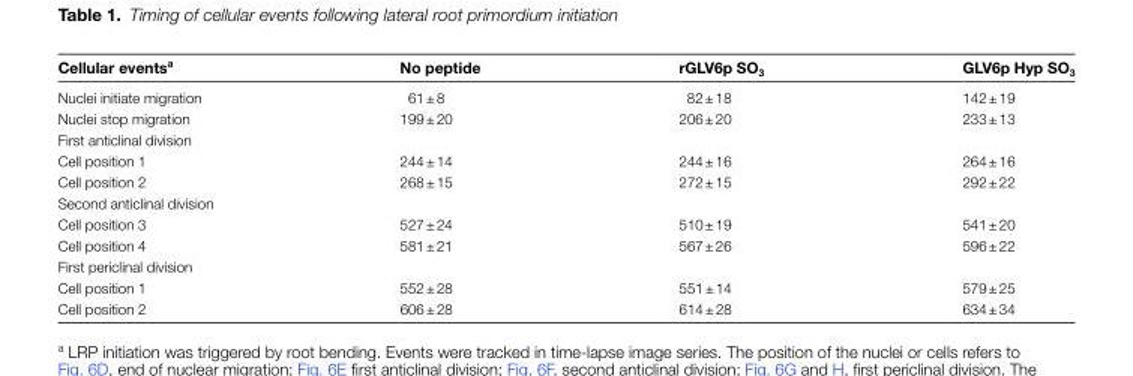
<table><thead><tr><td>Cellular events<sup>a</sup></td><td>No peptide</td><td>rGLV6p SO<sub>3</sub></td><td>GLV6p Hyp SO<sub>3</sub></td></tr></thead><tbody><tr><td>Nuclei initiate migration</td><td>61 ± 8</td><td>82 ± 18</td><td>142 ± 19</td></tr><tr><td>Nuclei stop migration</td><td>199 ± 20</td><td>206 ± 20</td><td>233 ± 13</td></tr><tr><td colspan="4">First anticlinal division</td></tr><tr><td>Cell position 1</td><td>244 ± 14</td><td>244 ± 16</td><td>264 ± 16</td></tr><tr><td>Cell position 2</td><td>268 ± 15</td><td>272 ± 15</td><td>292 ± 22</td></tr><tr><td colspan="4">Second anticlinal division</td></tr><tr><td>Cell position 3</td><td>527 ± 24</td><td>510 ± 19</td><td>541 ± 20</td></tr><tr><td>Cell position 4</td><td>581 ± 21</td><td>567 ± 26</td><td>596 ± 22</td></tr><tr><td colspan="4">First periclinal division</td></tr><tr><td>Cell position 1</td><td>552 ± 28</td><td>551 ± 14</td><td>579 ± 25</td></tr><tr><td>Cell position 2</td><td>606 ± 28</td><td>614 ± 28</td><td>634 ± 34</td></tr></tbody></table>